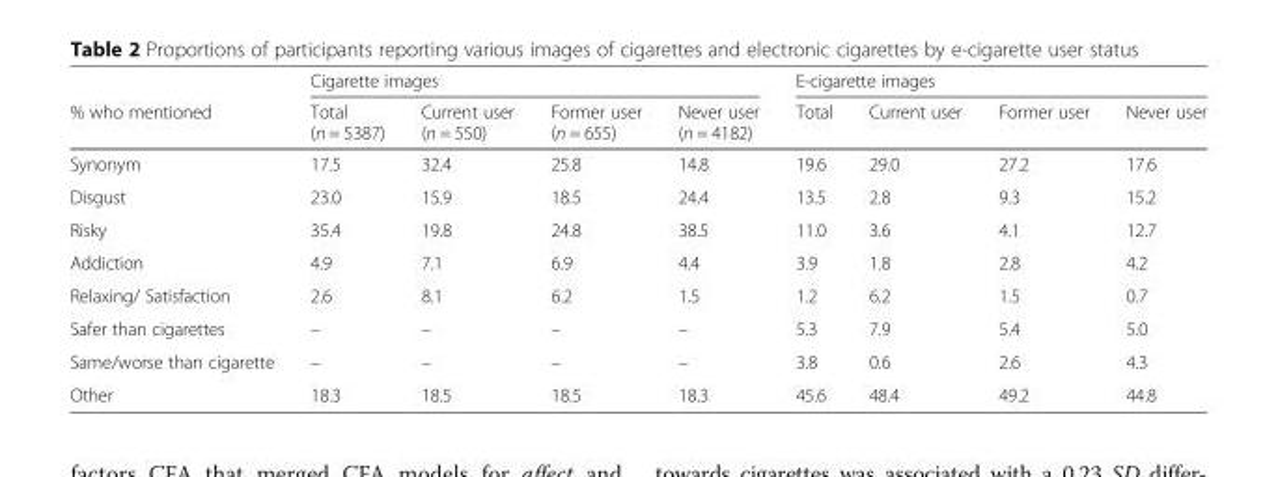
<table><thead><tr><td rowspan="2">% who mentioned</td><td colspan="4">Cigarette images</td><td colspan="4">E-cigarette images</td></tr><tr><td>Total (n = 5387)</td><td>Current user (n = 550)</td><td>Former user (n = 655)</td><td>Never user (n = 4182)</td><td>Total</td><td>Current user</td><td>Former user</td><td>Never user</td></tr></thead><tbody><tr><td>Synonym</td><td>17.5</td><td>32.4</td><td>25.8</td><td>14.8</td><td>19.6</td><td>29.0</td><td>27.2</td><td>17.6</td></tr><tr><td>Disgust</td><td>23.0</td><td>15.9</td><td>18.5</td><td>24.4</td><td>13.5</td><td>2.8</td><td>9.3</td><td>15.2</td></tr><tr><td>Risky</td><td>35.4</td><td>19.8</td><td>24.8</td><td>38.5</td><td>11.0</td><td>3.6</td><td>4.1</td><td>12.7</td></tr><tr><td>Addiction</td><td>4.9</td><td>7.1</td><td>6.9</td><td>4.4</td><td>3.9</td><td>1.8</td><td>2.8</td><td>4.2</td></tr><tr><td>Relaxing/ Satisfaction</td><td>2.6</td><td>8.1</td><td>6.2</td><td>1.5</td><td>1.2</td><td>6.2</td><td>1.5</td><td>0.7</td></tr><tr><td>Safer than cigarettes</td><td>–</td><td>–</td><td>–</td><td>–</td><td>5.3</td><td>7.9</td><td>5.4</td><td>5.0</td></tr><tr><td>Same/worse than cigarette</td><td>–</td><td>–</td><td>–</td><td>–</td><td>3.8</td><td>0.6</td><td>2.6</td><td>4.3</td></tr><tr><td>Other</td><td>18.3</td><td>18.5</td><td>18.5</td><td>18.3</td><td>45.6</td><td>48.4</td><td>49.2</td><td>44.8</td></tr></tbody></table>